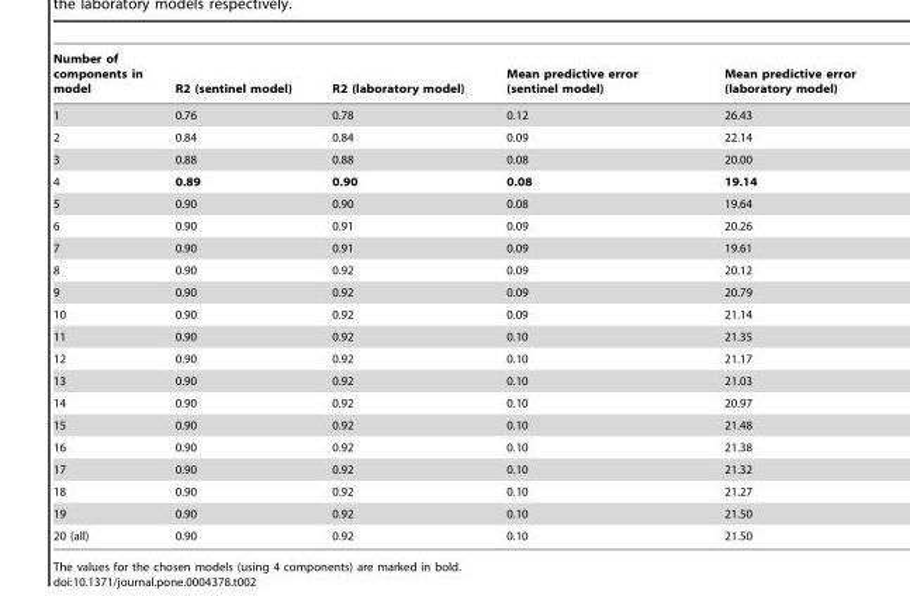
<table><thead><tr><td>Number of components in model</td><td>R2 (sentinel model)</td><td>R2 (laboratory model)</td><td>Mean predictive error (sentinel model)</td><td>Mean predictive error (laboratory model)</td></tr></thead><tbody><tr><td>1</td><td>0.76</td><td>0.78</td><td>0.12</td><td>26.43</td></tr><tr><td>2</td><td>0.84</td><td>0.84</td><td>0.09</td><td>22.14</td></tr><tr><td>3</td><td>0.88</td><td>0.88</td><td>0.08</td><td>20.00</td></tr><tr><td>4</td><td>0.89</td><td>0.90</td><td>0.08</td><td>19.14</td></tr><tr><td>5</td><td>0.90</td><td>0.90</td><td>0.08</td><td>19.64</td></tr><tr><td>6</td><td>0.90</td><td>0.91</td><td>0.09</td><td>20.26</td></tr><tr><td>7</td><td>0.90</td><td>0.91</td><td>0.09</td><td>19.61</td></tr><tr><td>8</td><td>0.90</td><td>0.92</td><td>0.09</td><td>20.12</td></tr><tr><td>9</td><td>0.90</td><td>0.92</td><td>0.09</td><td>20.79</td></tr><tr><td>10</td><td>0.90</td><td>0.92</td><td>0.09</td><td>21.14</td></tr><tr><td>11</td><td>0.90</td><td>0.92</td><td>0.10</td><td>21.35</td></tr><tr><td>12</td><td>0.90</td><td>0.92</td><td>0.10</td><td>21.17</td></tr><tr><td>13</td><td>0.90</td><td>0.92</td><td>0.10</td><td>21.03</td></tr><tr><td>14</td><td>0.90</td><td>0.92</td><td>0.10</td><td>20.97</td></tr><tr><td>15</td><td>0.90</td><td>0.92</td><td>0.10</td><td>21.48</td></tr><tr><td>16</td><td>0.90</td><td>0.92</td><td>0.10</td><td>21.38</td></tr><tr><td>17</td><td>0.90</td><td>0.92</td><td>0.10</td><td>21.32</td></tr><tr><td>18</td><td>0.90</td><td>0.92</td><td>0.10</td><td>21.27</td></tr><tr><td>19</td><td>0.90</td><td>0.92</td><td>0.10</td><td>21.50</td></tr><tr><td>20 (all)</td><td>0.90</td><td>0.92</td><td>0.10</td><td>21.50</td></tr></tbody></table>